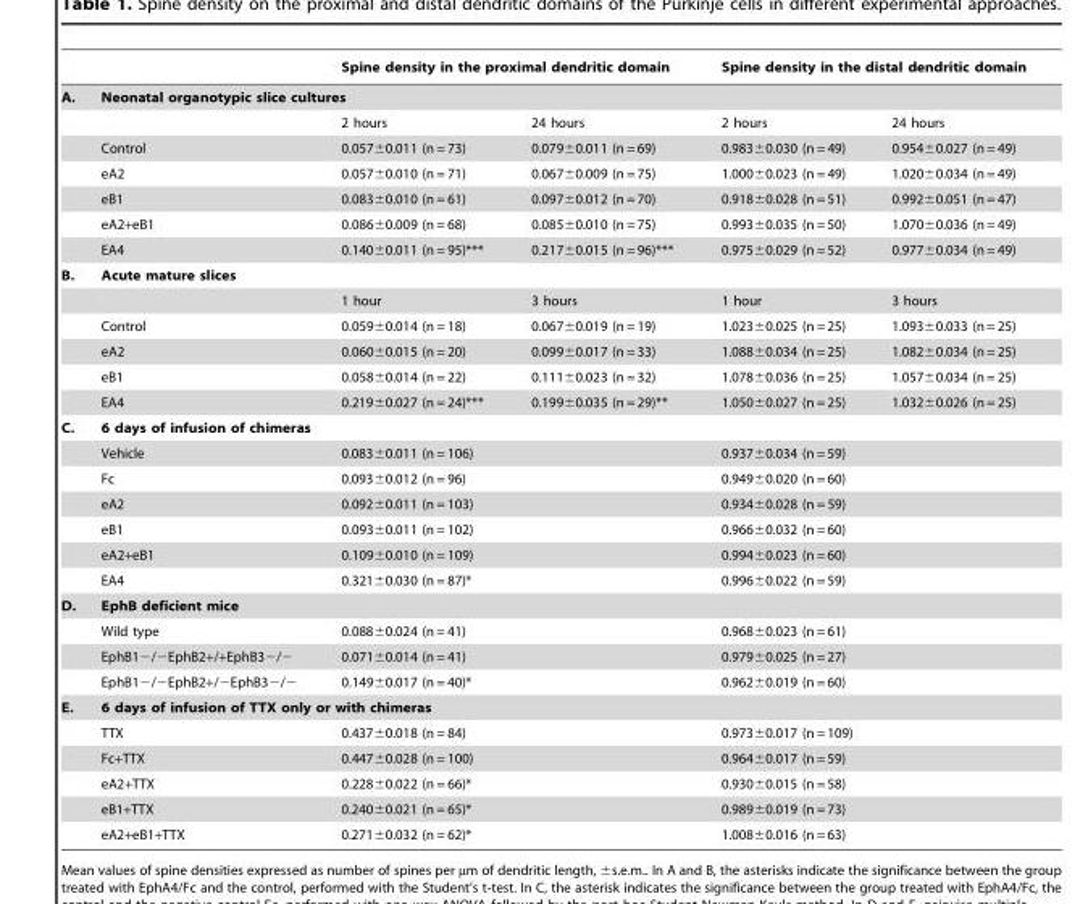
<table><thead><tr><td rowspan="3">A.</td><td></td><td colspan="2">Spine density in the proximal dendritic domain</td><td colspan="2">Spine density in the distal dendritic domain</td></tr><tr><td colspan="5">Neonatal organotypic slice cultures</td></tr><tr><td></td><td>2 hours</td><td>24 hours</td><td>2 hours</td><td>24 hours</td></tr></thead><tbody><tr><td></td><td>Control</td><td>0.057±0.011 (n = 73)</td><td>0.079±0.011 (n = 69)</td><td>0.983±0.030 (n = 49)</td><td>0.954±0.027 (n = 49)</td></tr><tr><td></td><td>eA2</td><td>0.057±0.010 (n = 71)</td><td>0.067±0.009 (n = 75)</td><td>1.000±0.023 (n = 49)</td><td>1.020±0.034 (n = 49)</td></tr><tr><td></td><td>eB1</td><td>0.083±0.010 (n = 61)</td><td>0.097±0.012 (n = 70)</td><td>0.918±0.028 (n = 51)</td><td>0.992±0.051 (n = 47)</td></tr><tr><td></td><td>eA2+eB1</td><td>0.086±0.009 (n = 68)</td><td>0.085±0.010 (n = 75)</td><td>0.993±0.035 (n = 50)</td><td>1.070±0.036 (n = 49)</td></tr><tr><td></td><td>EA4</td><td>0.140±0.011 (n = 95)***</td><td>0.217±0.015 (n = 96)***</td><td>0.975±0.029 (n = 52)</td><td>0.977±0.034 (n = 49)</td></tr><tr><td rowspan="6">B.</td><td colspan="5">Acute mature slices</td></tr><tr><td></td><td>1 hour</td><td>3 hours</td><td>1 hour</td><td>3 hours</td></tr><tr><td>Control</td><td>0.059±0.014 (n = 18)</td><td>0.067±0.019 (n = 19)</td><td>1.023±0.025 (n = 25)</td><td>1.093±0.033 (n = 25)</td></tr><tr><td>eA2</td><td>0.060±0.015 (n = 20)</td><td>0.099±0.017 (n = 33)</td><td>1.088±0.034 (n = 25)</td><td>1.082±0.034 (n = 25)</td></tr><tr><td>eB1</td><td>0.058±0.014 (n = 22)</td><td>0.111±0.023 (n = 32)</td><td>1.078±0.036 (n = 25)</td><td>1.057±0.034 (n = 25)</td></tr><tr><td>EA4</td><td>0.219±0.027 (n = 24)***</td><td>0.199±0.035 (n = 29)**</td><td>1.050±0.027 (n = 25)</td><td>1.032±0.026 (n = 25)</td></tr><tr><td rowspan="7">C.</td><td colspan="5">6 days of infusion of chimeras</td></tr><tr><td>Vehicle</td><td colspan="2">0.083±0.011 (n = 106)</td><td colspan="2">0.937±0.034 (n = 59)</td></tr><tr><td>Fc</td><td colspan="2">0.093±0.012 (n = 96)</td><td colspan="2">0.949±0.020 (n = 60)</td></tr><tr><td>eA2</td><td colspan="2">0.092±0.011 (n = 103)</td><td colspan="2">0.934±0.028 (n = 59)</td></tr><tr><td>eB1</td><td colspan="2">0.093±0.011 (n = 102)</td><td colspan="2">0.966±0.032 (n = 60)</td></tr><tr><td>eA2+eB1</td><td colspan="2">0.109±0.010 (n = 109)</td><td colspan="2">0.994±0.023 (n = 60)</td></tr><tr><td>EA4</td><td colspan="2">0.321±0.030 (n = 87)*</td><td colspan="2">0.996±0.022 (n = 59)</td></tr><tr><td rowspan="4">D.</td><td colspan="5">EphB deficient mice</td></tr><tr><td>Wild type</td><td colspan="2">0.088±0.024 (n = 41)</td><td colspan="2">0.968±0.023 (n = 61)</td></tr><tr><td>EphB1−/−EphB2+/+EphB3−/−</td><td colspan="2">0.071±0.014 (n = 41)</td><td colspan="2">0.979±0.025 (n = 27)</td></tr><tr><td>EphB1−/−EphB2+/−EphB3−/−</td><td colspan="2">0.149±0.017 (n = 40)*</td><td colspan="2">0.962±0.019 (n = 60)</td></tr><tr><td rowspan="6">E.</td><td colspan="5">6 days of infusion of TTX only or with chimeras</td></tr><tr><td>TTX</td><td colspan="2">0.437±0.018 (n = 84)</td><td colspan="2">0.973±0.017 (n = 109)</td></tr><tr><td>Fc+TTX</td><td colspan="2">0.447±0.028 (n = 100)</td><td colspan="2">0.964±0.017 (n = 59)</td></tr><tr><td>eA2+TTX</td><td colspan="2">0.228±0.022 (n = 66)*</td><td colspan="2">0.930±0.015 (n = 58)</td></tr><tr><td>eB1+TTX</td><td colspan="2">0.240±0.021 (n = 65)*</td><td colspan="2">0.989±0.019 (n = 73)</td></tr><tr><td>eA2+eB1+TTX</td><td colspan="2">0.271±0.032 (n = 62)*</td><td colspan="2">1.008±0.016 (n = 63)</td></tr></tbody></table>